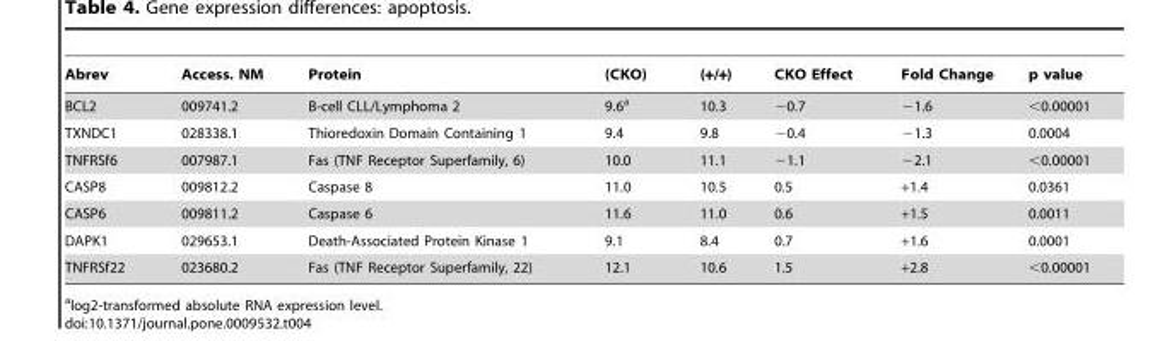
<table><thead><tr><td>Abrev</td><td>Access. NM</td><td>Protein</td><td>(CKO)</td><td>(+/+)</td><td>CKO Effect</td><td>Fold Change</td><td>p value</td></tr></thead><tbody><tr><td>BCL2</td><td>009741.2</td><td>B-cell CLL/Lymphoma 2</td><td>9.6<sup>a</sup></td><td>10.3</td><td>−0.7</td><td>−1.6</td><td>&lt;0.00001</td></tr><tr><td>TXNDC1</td><td>028338.1</td><td>Thioredoxin Domain Containing 1</td><td>9.4</td><td>9.8</td><td>−0.4</td><td>−1.3</td><td>0.0004</td></tr><tr><td>TNFRSf6</td><td>007987.1</td><td>Fas (TNF Receptor Superfamily, 6)</td><td>10.0</td><td>11.1</td><td>−1.1</td><td>−2.1</td><td>&lt;0.00001</td></tr><tr><td>CASP8</td><td>009812.2</td><td>Caspase 8</td><td>11.0</td><td>10.5</td><td>0.5</td><td>+1.4</td><td>0.0361</td></tr><tr><td>CASP6</td><td>009811.2</td><td>Caspase 6</td><td>11.6</td><td>11.0</td><td>0.6</td><td>+1.5</td><td>0.0011</td></tr><tr><td>DAPK1</td><td>029653.1</td><td>Death-Associated Protein Kinase 1</td><td>9.1</td><td>8.4</td><td>0.7</td><td>+1.6</td><td>0.0001</td></tr><tr><td>TNFRSf22</td><td>023680.2</td><td>Fas (TNF Receptor Superfamily, 22)</td><td>12.1</td><td>10.6</td><td>1.5</td><td>+2.8</td><td>&lt;0.00001</td></tr></tbody></table>